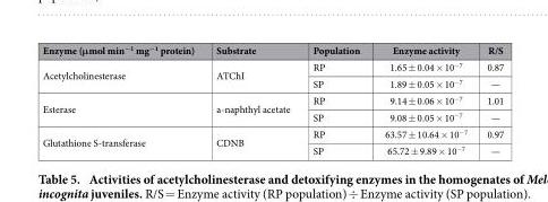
<table><thead><tr><td>Enzyme (μmol min<sup>−1</sup> mg<sup>−1</sup> protein)</td><td>Substrate</td><td>Population</td><td>Enzyme activity</td><td>R/S</td></tr></thead><tbody><tr><td rowspan="2">Acetylcholinesterase</td><td rowspan="2">ATChI</td><td>RP</td><td>1.65 ± 0.04 × 10<sup>−7</sup></td><td>0.87</td></tr><tr><td>SP</td><td>1.89 ± 0.05 × 10<sup>−7</sup></td><td>—</td></tr><tr><td rowspan="2">Esterase</td><td rowspan="2">a-naphthyl acetate</td><td>RP</td><td>9.14 ± 0.06 × 10<sup>−7</sup></td><td>1.01</td></tr><tr><td>SP</td><td>9.08 ± 0.05 × 10<sup>−7</sup></td><td>—</td></tr><tr><td rowspan="2">Glutathione S-transferase</td><td rowspan="2">CDNB</td><td>RP</td><td>63.57 ± 10.64 × 10<sup>−7</sup></td><td>0.97</td></tr><tr><td>SP</td><td>65.72 ± 9.89 × 10<sup>−7</sup></td><td>—</td></tr></tbody></table>